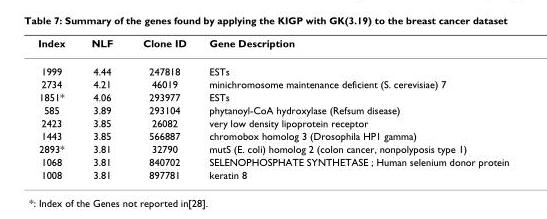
<table><thead><tr><td>Index</td><td>NLF</td><td>Clone ID</td><td>Gene Description</td></tr></thead><tbody><tr><td>1999</td><td>4.44</td><td>247818</td><td>ESTs</td></tr><tr><td>2734</td><td>4.21</td><td>46019</td><td>minichromosome maintenance deficient (S. cerevisiae) 7</td></tr><tr><td>1851*</td><td>4.06</td><td>293977</td><td>ESTs</td></tr><tr><td>585</td><td>3.89</td><td>293104</td><td>phytanoyl-CoA hydroxylase (Refsum disease)</td></tr><tr><td>2423</td><td>3.85</td><td>26082</td><td>very low density lipoprotein receptor</td></tr><tr><td>1443</td><td>3.85</td><td>566887</td><td>chromobox homolog 3 (Drosophila HP1 gamma)</td></tr><tr><td>2893*</td><td>3.81</td><td>32790</td><td>mutS (E. coli) homolog 2 (colon cancer, nonpolyposis type 1)</td></tr><tr><td>1068</td><td>3.81</td><td>840702</td><td>SELENOPHOSPHATE SYNTHETASE ; Human selenium donor protein</td></tr><tr><td>1008</td><td>3.81</td><td>897781</td><td>keratin 8</td></tr></tbody></table>